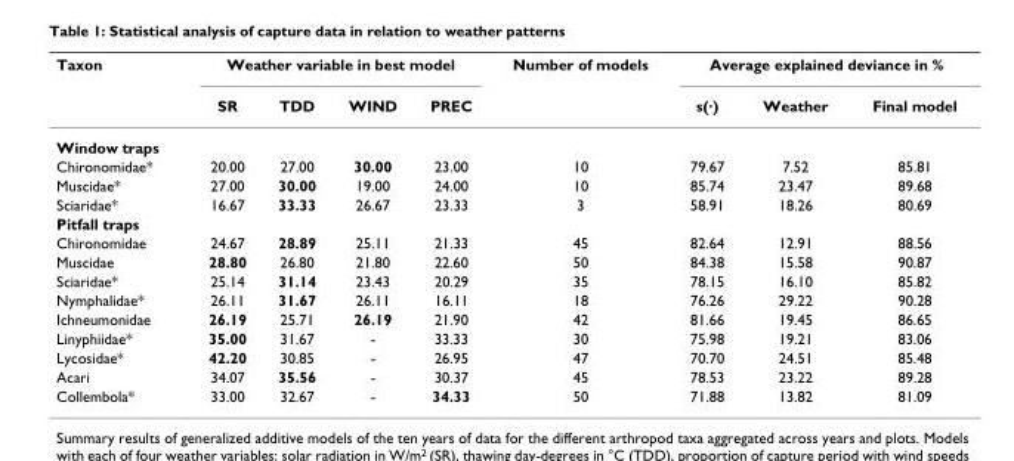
<table><thead><tr><td rowspan="2">Taxon</td><td colspan="4">Weather variable in best model</td><td rowspan="2">Number of models</td><td colspan="3">Average explained deviance in %</td></tr><tr><td>SR</td><td>TDD</td><td>WIND</td><td>PREC</td><td>s(·)</td><td>Weather</td><td>Final model</td></tr></thead><tbody><tr><td colspan="9">Window traps</td></tr><tr><td>Chironomidae*</td><td>20.00</td><td>27.00</td><td>30.00</td><td>23.00</td><td>10</td><td>79.67</td><td>7.52</td><td>85.81</td></tr><tr><td>Muscidae*</td><td>27.00</td><td>30.00</td><td>19.00</td><td>24.00</td><td>10</td><td>85.74</td><td>23.47</td><td>89.68</td></tr><tr><td>Sciaridae*</td><td>16.67</td><td>33.33</td><td>26.67</td><td>23.33</td><td>3</td><td>58.91</td><td>18.26</td><td>80.69</td></tr><tr><td colspan="9">Pitfall traps</td></tr><tr><td>Chironomidae</td><td>24.67</td><td>28.89</td><td>25.11</td><td>21.33</td><td>45</td><td>82.64</td><td>12.91</td><td>88.56</td></tr><tr><td>Muscidae</td><td>28.80</td><td>26.80</td><td>21.80</td><td>22.60</td><td>50</td><td>84.38</td><td>15.58</td><td>90.87</td></tr><tr><td>Sciaridae*</td><td>25.14</td><td>31.14</td><td>23.43</td><td>20.29</td><td>35</td><td>78.15</td><td>16.10</td><td>85.82</td></tr><tr><td>Nymphalidae*</td><td>26.11</td><td>31.67</td><td>26.11</td><td>16.11</td><td>18</td><td>76.26</td><td>29.22</td><td>90.28</td></tr><tr><td>Ichneumonidae</td><td>26.19</td><td>25.71</td><td>26.19</td><td>21.90</td><td>42</td><td>81.66</td><td>19.45</td><td>86.65</td></tr><tr><td>Linyphiidae*</td><td>35.00</td><td>31.67</td><td>-</td><td>33.33</td><td>30</td><td>75.98</td><td>19.21</td><td>83.06</td></tr><tr><td>Lycosidae*</td><td>42.20</td><td>30.85</td><td>-</td><td>26.95</td><td>47</td><td>70.70</td><td>24.51</td><td>85.48</td></tr><tr><td>Acari</td><td>34.07</td><td>35.56</td><td>-</td><td>30.37</td><td>45</td><td>78.53</td><td>23.22</td><td>89.28</td></tr><tr><td>Collembola*</td><td>33.00</td><td>32.67</td><td>-</td><td>34.33</td><td>50</td><td>71.88</td><td>13.82</td><td>81.09</td></tr></tbody></table>